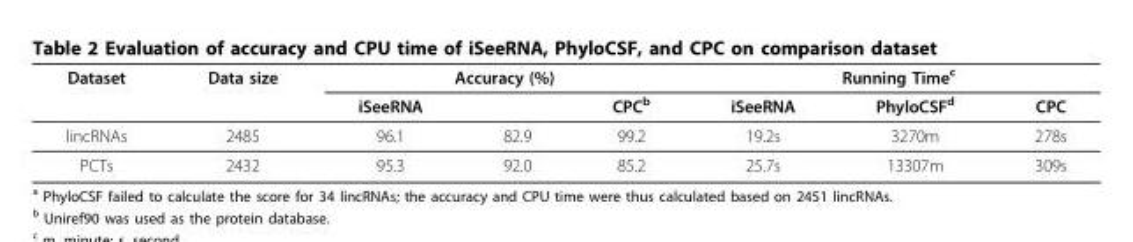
<table><thead><tr><td rowspan="2">Dataset</td><td rowspan="2">Data size</td><td colspan="3">Accuracy (%)</td><td colspan="3">Running Time<sup>c</sup></td></tr><tr><td>iSeeRNA</td><td></td><td>CPC<sup>b</sup></td><td>iSeeRNA</td><td>PhyloCSF<sup>d</sup></td><td>CPC</td></tr></thead><tbody><tr><td>lincRNAs</td><td>2485</td><td>96.1</td><td>82.9</td><td>99.2</td><td>19.2s</td><td>3270m</td><td>278s</td></tr><tr><td>PCTs</td><td>2432</td><td>95.3</td><td>92.0</td><td>85.2</td><td>25.7s</td><td>13307m</td><td>309s</td></tr></tbody></table>